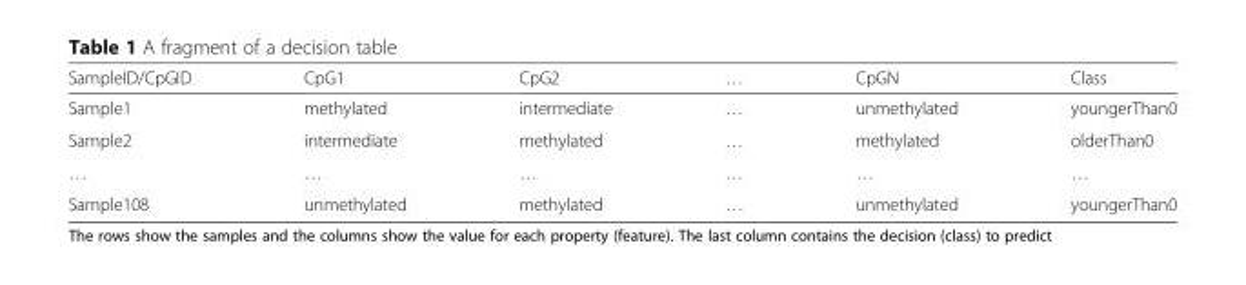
<table><thead><tr><td>SampleID/CpGID</td><td>CpG1</td><td>CpG2</td><td>…</td><td>CpGN</td><td>Class</td></tr></thead><tbody><tr><td>Sample1</td><td>methylated</td><td>intermediate</td><td>…</td><td>unmethylated</td><td>youngerThan0</td></tr><tr><td>Sample2</td><td>intermediate</td><td>methylated</td><td>…</td><td>methylated</td><td>olderThan0</td></tr><tr><td>…</td><td>…</td><td>…</td><td>…</td><td>…</td><td>…</td></tr><tr><td>Sample108</td><td>unmethylated</td><td>methylated</td><td>…</td><td>unmethylated</td><td>youngerThan0</td></tr></tbody></table>